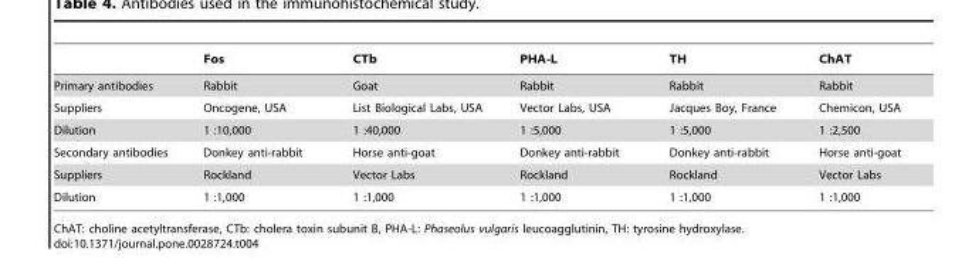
<table><thead><tr><td></td><td>Fos</td><td>CTb</td><td>PHA-L</td><td>TH</td><td>ChAT</td></tr></thead><tbody><tr><td>Primary antibodies</td><td>Rabbit</td><td>Goat</td><td>Rabbit</td><td>Rabbit</td><td>Rabbit</td></tr><tr><td>Suppliers</td><td>Oncogene, USA</td><td>List Biological Labs, USA</td><td>Vector Labs, USA</td><td>Jacques Boy, France</td><td>Chemicon, USA</td></tr><tr><td>Dilution</td><td>1 :10,000</td><td>1 :40,000</td><td>1 :5,000</td><td>1 :5,000</td><td>1 :2,500</td></tr><tr><td>Secondary antibodies</td><td>Donkey anti-rabbit</td><td>Horse anti-goat</td><td>Donkey anti-rabbit</td><td>Donkey anti-rabbit</td><td>Horse anti-goat</td></tr><tr><td>Suppliers</td><td>Rockland</td><td>Vector Labs</td><td>Rockland</td><td>Rockland</td><td>Vector Labs</td></tr><tr><td>Dilution</td><td>1 :1,000</td><td>1 :1,000</td><td>1 :1,000</td><td>1 :1,000</td><td>1 :1,000</td></tr></tbody></table>